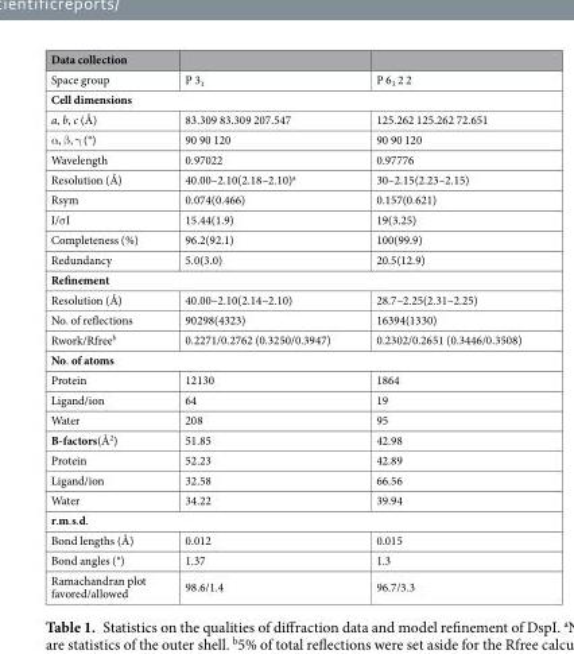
<table><thead><tr><td>Data collection</td><td></td><td></td></tr></thead><tbody><tr><td>Space group</td><td>P 3<sub>1</sub></td><td>P 6<sub>3</sub> 2 2</td></tr><tr><td colspan="3">Cell dimensions</td></tr><tr><td>a, b, c (Å)</td><td>83.309 83.309 207.547</td><td>125.262 125.262 72.651</td></tr><tr><td>α, β, γ (°)</td><td>90 90 120</td><td>90 90 120</td></tr><tr><td>Wavelength</td><td>0.97022</td><td>0.97776</td></tr><tr><td>Resolution (Å)</td><td>40.00–2.10(2.18–2.10)<sup>a</sup></td><td>30–2.15(2.23–2.15)</td></tr><tr><td>Rsym</td><td>0.074(0.466)</td><td>0.157(0.621)</td></tr><tr><td>I/σI</td><td>15.44(1.9)</td><td>19(3.25)</td></tr><tr><td>Completeness (%)</td><td>96.2(92.1)</td><td>100(99.9)</td></tr><tr><td>Redundancy</td><td>5.0(3.0)</td><td>20.5(12.9)</td></tr><tr><td colspan="3">Refinement</td></tr><tr><td>Resolution (Å)</td><td>40.00–2.10(2.14–2.10)</td><td>28.7–2.25(2.31–2.25)</td></tr><tr><td>No. of reflections</td><td>90298(4323)</td><td>16394(1330)</td></tr><tr><td>Rwork/Rfree<sup>b</sup></td><td>0.2271/0.2762 (0.3250/0.3947)</td><td>0.2302/0.2651 (0.3446/0.3508)</td></tr><tr><td colspan="3">No. of atoms</td></tr><tr><td>Protein</td><td>12130</td><td>1864</td></tr><tr><td>Ligand/ion</td><td>64</td><td>19</td></tr><tr><td>Water</td><td>208</td><td>95</td></tr><tr><td>B-factors(Å<sup>2</sup>)</td><td>51.85</td><td>42.98</td></tr><tr><td>Protein</td><td>52.23</td><td>42.89</td></tr><tr><td>Ligand/ion</td><td>32.58</td><td>66.56</td></tr><tr><td>Water</td><td>34.22</td><td>39.94</td></tr><tr><td colspan="3">r.m.s.d.</td></tr><tr><td>Bond lengths (Å)</td><td>0.012</td><td>0.015</td></tr><tr><td>Bond angles (°)</td><td>1.37</td><td>1.3</td></tr><tr><td>Ramachandran plot favored/allowed</td><td>98.6/1.4</td><td>96.7/3.3</td></tr></tbody></table>